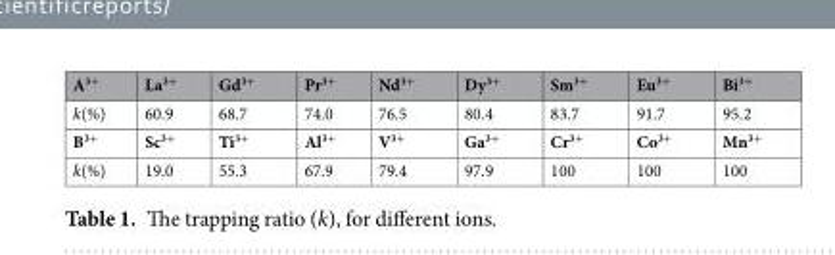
<table><thead><tr><td>A<sup>3+</sup></td><td>La<sup>3+</sup></td><td>Gd<sup>3+</sup></td><td>Pr<sup>3+</sup></td><td>Nd<sup>3+</sup></td><td>Dy<sup>3+</sup></td><td>Sm<sup>3+</sup></td><td>Eu<sup>3+</sup></td><td>Bi<sup>3+</sup></td></tr></thead><tbody><tr><td>k(%)</td><td>60.9</td><td>68.7</td><td>74.0</td><td>76.5</td><td>80.4</td><td>83.7</td><td>91.7</td><td>95.2</td></tr><tr><td>B<sup>3+</sup></td><td>Sc<sup>3+</sup></td><td>Ti<sup>3+</sup></td><td>Al<sup>3+</sup></td><td>V<sup>3+</sup></td><td>Ga<sup>3+</sup></td><td>Cr<sup>3+</sup></td><td>Co<sup>3+</sup></td><td>Mn<sup>3+</sup></td></tr><tr><td>k(%)</td><td>19.0</td><td>55.3</td><td>67.9</td><td>79.4</td><td>97.9</td><td>100</td><td>100</td><td>100</td></tr></tbody></table>